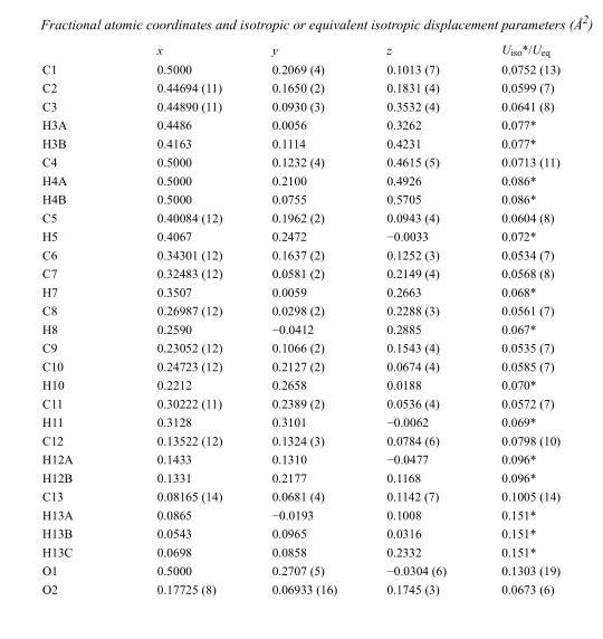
<table><thead><tr><td></td><td>x</td><td>y</td><td>z</td><td>U<sub>iso</sub>*/U<sub>eq</sub></td></tr></thead><tbody><tr><td>C1</td><td>0.5000</td><td>0.2069 (4)</td><td>0.1013 (7)</td><td>0.0752 (13)</td></tr><tr><td>C2</td><td>0.44694 (11)</td><td>0.1650 (2)</td><td>0.1831 (4)</td><td>0.0599 (7)</td></tr><tr><td>C3</td><td>0.44890 (11)</td><td>0.0930 (3)</td><td>0.3532 (4)</td><td>0.0641 (8)</td></tr><tr><td>H3A</td><td>0.4486</td><td>0.0056</td><td>0.3262</td><td>0.077*</td></tr><tr><td>H3B</td><td>0.4163</td><td>0.1114</td><td>0.4231</td><td>0.077*</td></tr><tr><td>C4</td><td>0.5000</td><td>0.1232 (4)</td><td>0.4615 (5)</td><td>0.0713 (11)</td></tr><tr><td>H4A</td><td>0.5000</td><td>0.2100</td><td>0.4926</td><td>0.086*</td></tr><tr><td>H4B</td><td>0.5000</td><td>0.0755</td><td>0.5705</td><td>0.086*</td></tr><tr><td>C5</td><td>0.40084 (12)</td><td>0.1962 (2)</td><td>0.0943 (4)</td><td>0.0604 (8)</td></tr><tr><td>H5</td><td>0.4067</td><td>0.2472</td><td>−0.0033</td><td>0.072*</td></tr><tr><td>C6</td><td>0.34301 (12)</td><td>0.1637 (2)</td><td>0.1252 (3)</td><td>0.0534 (7)</td></tr><tr><td>C7</td><td>0.32483 (12)</td><td>0.0581 (2)</td><td>0.2149 (4)</td><td>0.0568 (8)</td></tr><tr><td>H7</td><td>0.3507</td><td>0.0059</td><td>0.2663</td><td>0.068*</td></tr><tr><td>C8</td><td>0.26987 (12)</td><td>0.0298 (2)</td><td>0.2288 (3)</td><td>0.0561 (7)</td></tr><tr><td>H8</td><td>0.2590</td><td>−0.0412</td><td>0.2885</td><td>0.067*</td></tr><tr><td>C9</td><td>0.23052 (12)</td><td>0.1066 (2)</td><td>0.1543 (4)</td><td>0.0535 (7)</td></tr><tr><td>C10</td><td>0.24723 (12)</td><td>0.2127 (2)</td><td>0.0674 (4)</td><td>0.0585 (7)</td></tr><tr><td>H10</td><td>0.2212</td><td>0.2658</td><td>0.0188</td><td>0.070*</td></tr><tr><td>C11</td><td>0.30222 (11)</td><td>0.2389 (2)</td><td>0.0536 (4)</td><td>0.0572 (7)</td></tr><tr><td>H11</td><td>0.3128</td><td>0.3101</td><td>−0.0062</td><td>0.069*</td></tr><tr><td>C12</td><td>0.13522 (12)</td><td>0.1324 (3)</td><td>0.0784 (6)</td><td>0.0798 (10)</td></tr><tr><td>H12A</td><td>0.1433</td><td>0.1310</td><td>−0.0477</td><td>0.096*</td></tr><tr><td>H12B</td><td>0.1331</td><td>0.2177</td><td>0.1168</td><td>0.096*</td></tr><tr><td>C13</td><td>0.08165 (14)</td><td>0.0681 (4)</td><td>0.1142 (7)</td><td>0.1005 (14)</td></tr><tr><td>H13A</td><td>0.0865</td><td>−0.0193</td><td>0.1008</td><td>0.151*</td></tr><tr><td>H13B</td><td>0.0543</td><td>0.0965</td><td>0.0316</td><td>0.151*</td></tr><tr><td>H13C</td><td>0.0698</td><td>0.0858</td><td>0.2332</td><td>0.151*</td></tr><tr><td>O1</td><td>0.5000</td><td>0.2707 (5)</td><td>−0.0304 (6)</td><td>0.1303 (19)</td></tr><tr><td>O2</td><td>0.17725 (8)</td><td>0.06933 (16)</td><td>0.1745 (3)</td><td>0.0673 (6)</td></tr></tbody></table>